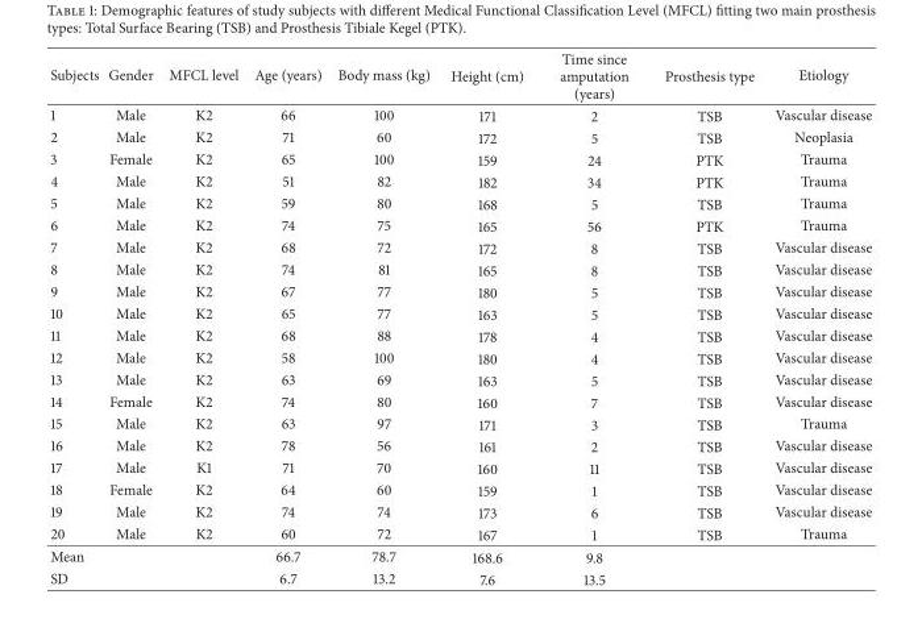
<table><thead><tr><td>Subjects</td><td>Gender</td><td>MFCL level</td><td>Age (years)</td><td>Body mass (kg)</td><td>Height (cm)</td><td>Time since amputation (years)</td><td>Prosthesis type</td><td>Etiology</td></tr></thead><tbody><tr><td>1</td><td>Male</td><td>K2</td><td>66</td><td>100</td><td>171</td><td>2</td><td>TSB</td><td>Vascular disease</td></tr><tr><td>2</td><td>Male</td><td>K2</td><td>71</td><td>60</td><td>172</td><td>5</td><td>TSB</td><td>Neoplasia</td></tr><tr><td>3</td><td>Female</td><td>K2</td><td>65</td><td>100</td><td>159</td><td>24</td><td>PTK</td><td>Trauma</td></tr><tr><td>4</td><td>Male</td><td>K2</td><td>51</td><td>82</td><td>182</td><td>34</td><td>PTK</td><td>Trauma</td></tr><tr><td>5</td><td>Male</td><td>K2</td><td>59</td><td>80</td><td>168</td><td>5</td><td>TSB</td><td>Trauma</td></tr><tr><td>6</td><td>Male</td><td>K2</td><td>74</td><td>75</td><td>165</td><td>56</td><td>PTK</td><td>Trauma</td></tr><tr><td>7</td><td>Male</td><td>K2</td><td>68</td><td>72</td><td>172</td><td>8</td><td>TSB</td><td>Vascular disease</td></tr><tr><td>8</td><td>Male</td><td>K2</td><td>74</td><td>81</td><td>165</td><td>8</td><td>TSB</td><td>Vascular disease</td></tr><tr><td>9</td><td>Male</td><td>K2</td><td>67</td><td>77</td><td>180</td><td>5</td><td>TSB</td><td>Vascular disease</td></tr><tr><td>10</td><td>Male</td><td>K2</td><td>65</td><td>77</td><td>163</td><td>5</td><td>TSB</td><td>Vascular disease</td></tr><tr><td>11</td><td>Male</td><td>K2</td><td>68</td><td>88</td><td>178</td><td>4</td><td>TSB</td><td>Vascular disease</td></tr><tr><td>12</td><td>Male</td><td>K2</td><td>58</td><td>100</td><td>180</td><td>4</td><td>TSB</td><td>Vascular disease</td></tr><tr><td>13</td><td>Male</td><td>K2</td><td>63</td><td>69</td><td>163</td><td>5</td><td>TSB</td><td>Vascular disease</td></tr><tr><td>14</td><td>Female</td><td>K2</td><td>74</td><td>80</td><td>160</td><td>7</td><td>TSB</td><td>Vascular disease</td></tr><tr><td>15</td><td>Male</td><td>K2</td><td>63</td><td>97</td><td>171</td><td>3</td><td>TSB</td><td>Trauma</td></tr><tr><td>16</td><td>Male</td><td>K2</td><td>78</td><td>56</td><td>161</td><td>2</td><td>TSB</td><td>Vascular disease</td></tr><tr><td>17</td><td>Male</td><td>K1</td><td>71</td><td>70</td><td>160</td><td>11</td><td>TSB</td><td>Vascular disease</td></tr><tr><td>18</td><td>Female</td><td>K2</td><td>64</td><td>60</td><td>159</td><td>1</td><td>TSB</td><td>Vascular disease</td></tr><tr><td>19</td><td>Male</td><td>K2</td><td>74</td><td>74</td><td>173</td><td>6</td><td>TSB</td><td>Vascular disease</td></tr><tr><td>20</td><td>Male</td><td>K2</td><td>60</td><td>72</td><td>167</td><td>1</td><td>TSB</td><td>Trauma</td></tr><tr><td>Mean</td><td></td><td></td><td>66.7</td><td>78.7</td><td>168.6</td><td>9.8</td><td></td><td></td></tr><tr><td>SD</td><td></td><td></td><td>6.7</td><td>13.2</td><td>7.6</td><td>13.5</td><td></td><td></td></tr></tbody></table>